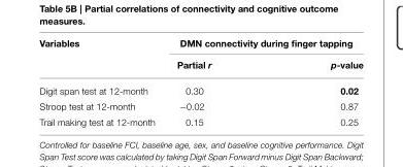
<table><thead><tr><td rowspan="2">Variables</td><td colspan="2">DMN connectivity during finger tapping</td></tr><tr><td>Partial r</td><td>p-value</td></tr></thead><tbody><tr><td>Digit span test at 12-month</td><td>0.30</td><td>0.02</td></tr><tr><td>Stroop test at 12-month</td><td>−0.02</td><td>0.87</td></tr><tr><td>Trail making test at 12-month</td><td>0.15</td><td>0.25</td></tr></tbody></table>